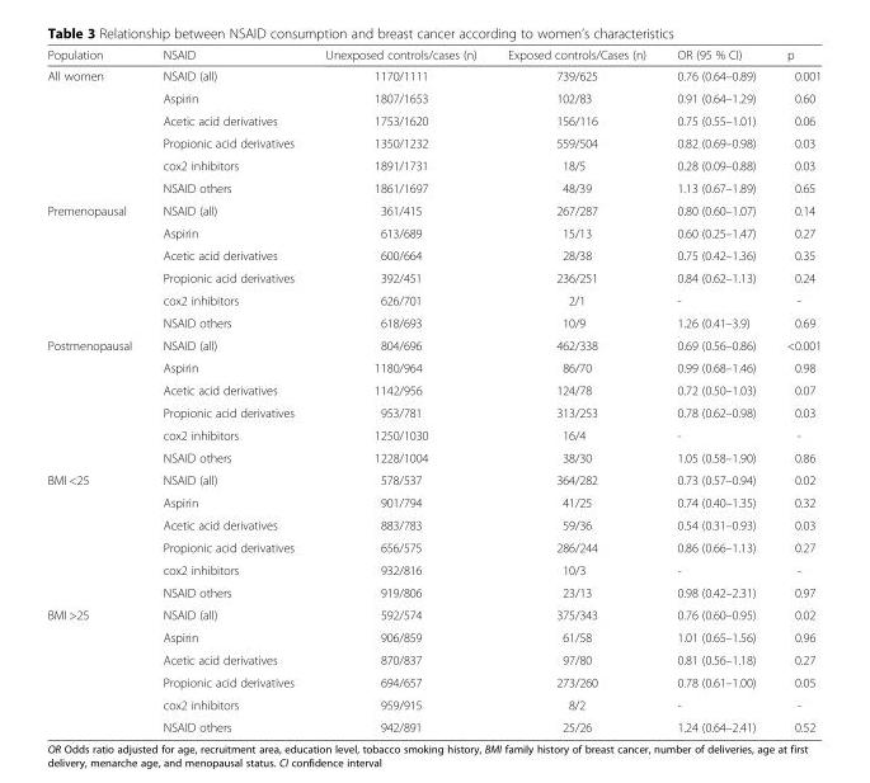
<table><thead><tr><td>Population</td><td>NSAID</td><td>Unexposed controls/cases (n)</td><td>Exposed controls/Cases (n)</td><td>OR (95 % CI)</td><td>p</td></tr></thead><tbody><tr><td rowspan="6">All women</td><td>NSAID (all)</td><td>1170/1111</td><td>739/625</td><td>0.76 (0.64–0.89)</td><td>0.001</td></tr><tr><td>Aspirin</td><td>1807/1653</td><td>102/83</td><td>0.91 (0.64–1.29)</td><td>0.60</td></tr><tr><td>Acetic acid derivatives</td><td>1753/1620</td><td>156/116</td><td>0.75 (0.55–1.01)</td><td>0.06</td></tr><tr><td>Propionic acid derivatives</td><td>1350/1232</td><td>559/504</td><td>0.82 (0.69–0.98)</td><td>0.03</td></tr><tr><td>cox2 inhibitors</td><td>1891/1731</td><td>18/5</td><td>0.28 (0.09–0.88)</td><td>0.03</td></tr><tr><td>NSAID others</td><td>1861/1697</td><td>48/39</td><td>1.13 (0.67–1.89)</td><td>0.65</td></tr><tr><td rowspan="6">Premenopausal</td><td>NSAID (all)</td><td>361/415</td><td>267/287</td><td>0.80 (0.60–1.07)</td><td>0.14</td></tr><tr><td>Aspirin</td><td>613/689</td><td>15/13</td><td>0.60 (0.25–1.47)</td><td>0.27</td></tr><tr><td>Acetic acid derivatives</td><td>600/664</td><td>28/38</td><td>0.75 (0.42–1.36)</td><td>0.35</td></tr><tr><td>Propionic acid derivatives</td><td>392/451</td><td>236/251</td><td>0.84 (0.62–1.13)</td><td>0.24</td></tr><tr><td>cox2 inhibitors</td><td>626/701</td><td>2/1</td><td>-</td><td>-</td></tr><tr><td>NSAID others</td><td>618/693</td><td>10/9</td><td>1.26 (0.41–3.9)</td><td>0.69</td></tr><tr><td rowspan="6">Postmenopausal</td><td>NSAID (all)</td><td>804/696</td><td>462/338</td><td>0.69 (0.56–0.86)</td><td>&lt;0.001</td></tr><tr><td>Aspirin</td><td>1180/964</td><td>86/70</td><td>0.99 (0.68–1.46)</td><td>0.98</td></tr><tr><td>Acetic acid derivatives</td><td>1142/956</td><td>124/78</td><td>0.72 (0.50–1.03)</td><td>0.07</td></tr><tr><td>Propionic acid derivatives</td><td>953/781</td><td>313/253</td><td>0.78 (0.62–0.98)</td><td>0.03</td></tr><tr><td>cox2 inhibitors</td><td>1250/1030</td><td>16/4</td><td>-</td><td>-</td></tr><tr><td>NSAID others</td><td>1228/1004</td><td>38/30</td><td>1.05 (0.58–1.90)</td><td>0.86</td></tr><tr><td rowspan="6">BMI &lt;25</td><td>NSAID (all)</td><td>578/537</td><td>364/282</td><td>0.73 (0.57–0.94)</td><td>0.02</td></tr><tr><td>Aspirin</td><td>901/794</td><td>41/25</td><td>0.74 (0.40–1.35)</td><td>0.32</td></tr><tr><td>Acetic acid derivatives</td><td>883/783</td><td>59/36</td><td>0.54 (0.31–0.93)</td><td>0.03</td></tr><tr><td>Propionic acid derivatives</td><td>656/575</td><td>286/244</td><td>0.86 (0.66–1.13)</td><td>0.27</td></tr><tr><td>cox2 inhibitors</td><td>932/816</td><td>10/3</td><td>-</td><td>-</td></tr><tr><td>NSAID others</td><td>919/806</td><td>23/13</td><td>0.98 (0.42–2.31)</td><td>0.97</td></tr><tr><td rowspan="6">BMI &gt;25</td><td>NSAID (all)</td><td>592/574</td><td>375/343</td><td>0.76 (0.60–0.95)</td><td>0.02</td></tr><tr><td>Aspirin</td><td>906/859</td><td>61/58</td><td>1.01 (0.65–1.56)</td><td>0.96</td></tr><tr><td>Acetic acid derivatives</td><td>870/837</td><td>97/80</td><td>0.81 (0.56–1.18)</td><td>0.27</td></tr><tr><td>Propionic acid derivatives</td><td>694/657</td><td>273/260</td><td>0.78 (0.61–1.00)</td><td>0.05</td></tr><tr><td>cox2 inhibitors</td><td>959/915</td><td>8/2</td><td>-</td><td>-</td></tr><tr><td>NSAID others</td><td>942/891</td><td>25/26</td><td>1.24 (0.64–2.41)</td><td>0.52</td></tr></tbody></table>